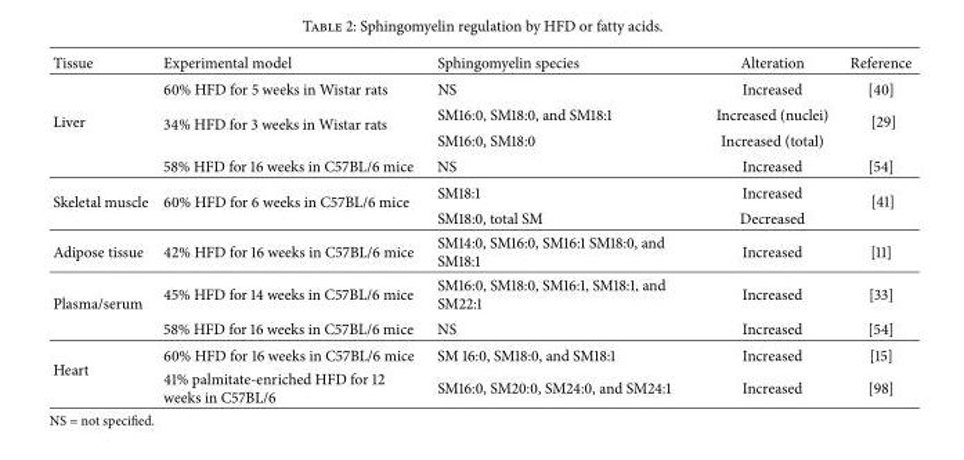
<table><thead><tr><td>Tissue</td><td>Experimental model</td><td>Sphingomyelin species</td><td>Alteration</td><td>Reference</td></tr></thead><tbody><tr><td rowspan="4">Liver</td><td>60% HFD for 5 weeks in Wistar rats</td><td>NS</td><td>Increased</td><td>[40]</td></tr><tr><td rowspan="2">34% HFD for 3 weeks in Wistar rats</td><td>SM16:0, SM18:0, and SM18:1</td><td>Increased (nuclei)</td><td rowspan="2">[29]</td></tr><tr><td>SM16:0, SM18:0</td><td>Increased (total)</td></tr><tr><td>58% HFD for 16 weeks in C57BL/6 mice</td><td>NS</td><td>Increased</td><td>[54]</td></tr><tr><td rowspan="2">Skeletal muscle</td><td rowspan="2">60% HFD for 6 weeks in C57BL/6 mice</td><td>SM18:1</td><td>Increased</td><td rowspan="2">[41]</td></tr><tr><td>SM18:0, total SM</td><td>Decreased</td></tr><tr><td>Adipose tissue</td><td>42% HFD for 16 weeks in C57BL/6 mice</td><td>SM14:0, SM16:0, SM16:1 SM18:0, and SM18:1</td><td>Increased</td><td>[11]</td></tr><tr><td rowspan="2">Plasma/serum</td><td>45% HFD for 14 weeks in C57BL/6 mice</td><td>SM16:0, SM18:0, SM16:1, SM18:1, and SM22:1</td><td>Increased</td><td>[33]</td></tr><tr><td>58% HFD for 16 weeks in C57BL/6 mice</td><td>NS</td><td>Increased</td><td>[54]</td></tr><tr><td rowspan="2">Heart</td><td>60% HFD for 16 weeks in C57BL/6 mice</td><td>SM 16:0, SM18:0, and SM18:1</td><td>Increased</td><td>[15]</td></tr><tr><td>41% palmitate-enriched HFD for 12 weeks in C57BL/6</td><td>SM16:0, SM20:0, SM24:0, and SM24:1</td><td>Increased</td><td>[98]</td></tr></tbody></table>